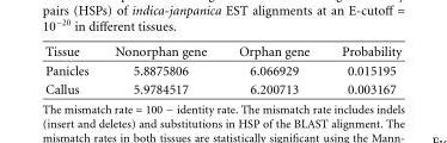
<table><thead><tr><td>Tissue</td><td>Nonorphan gene</td><td>Orphan gene</td><td>Probability</td></tr></thead><tbody><tr><td>Panicles</td><td>5.8875806</td><td>6.066929</td><td>0.015195</td></tr><tr><td>Callus</td><td>5.9784517</td><td>6.200713</td><td>0.003167</td></tr></tbody></table>